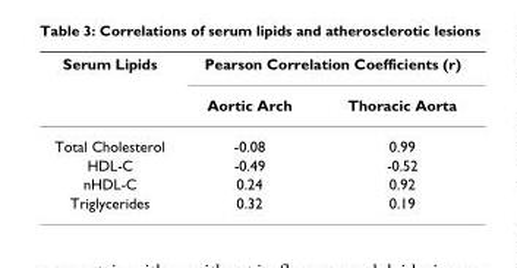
<table><thead><tr><td rowspan="2">Serum Lipids</td><td colspan="2">Pearson Correlation Coefficients (r)</td></tr><tr><td>Aortic Arch</td><td>Thoracic Aorta</td></tr></thead><tbody><tr><td>Total Cholesterol</td><td>-0.08</td><td>0.99</td></tr><tr><td>HDL-C</td><td>-0.49</td><td>-0.52</td></tr><tr><td>nHDL-C</td><td>0.24</td><td>0.92</td></tr><tr><td>Triglycerides</td><td>0.32</td><td>0.19</td></tr></tbody></table>